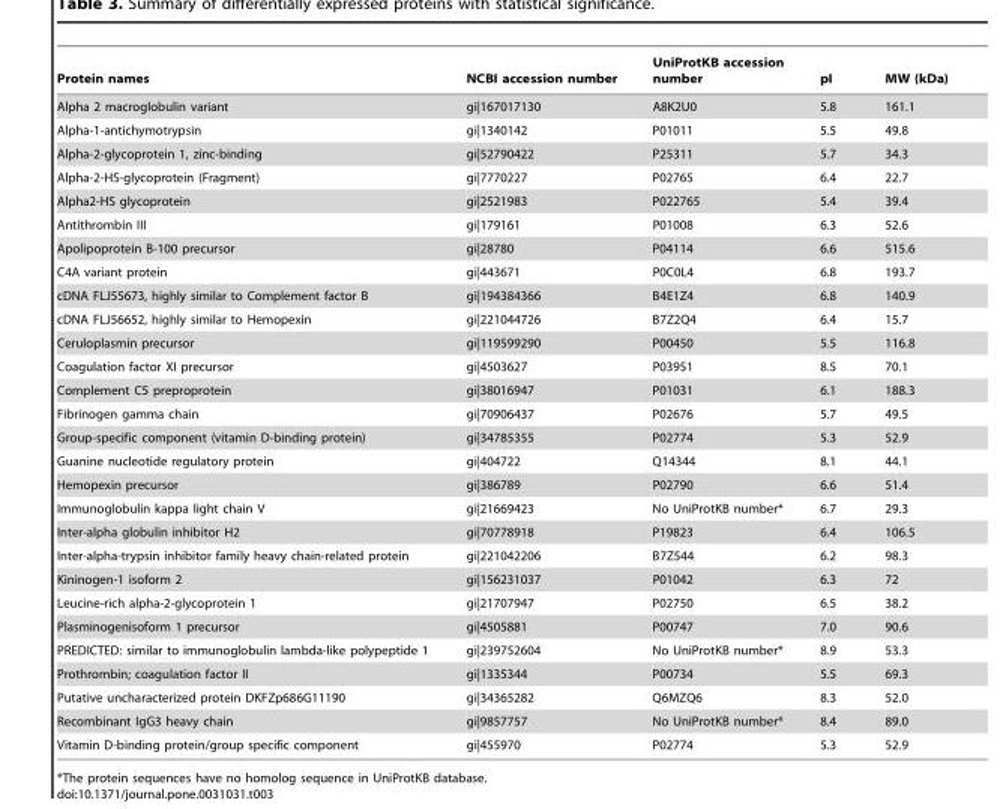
<table><thead><tr><td>Protein names</td><td>NCBI accession number</td><td>UniProtKB accession number</td><td>pI</td><td>MW (kDa)</td></tr></thead><tbody><tr><td>Alpha 2 macroglobulin variant</td><td>gi|167017130</td><td>A8K2U0</td><td>5.8</td><td>161.1</td></tr><tr><td>Alpha-1-antichymotrypsin</td><td>gi|1340142</td><td>P01011</td><td>5.5</td><td>49.8</td></tr><tr><td>Alpha-2-glycoprotein 1, zinc-binding</td><td>gi|52790422</td><td>P25311</td><td>5.7</td><td>34.3</td></tr><tr><td>Alpha-2-HS-glycoprotein (Fragment)</td><td>gi|7770227</td><td>P02765</td><td>6.4</td><td>22.7</td></tr><tr><td>Alpha2-HS glycoprotein</td><td>gi|2521983</td><td>P022765</td><td>5.4</td><td>39.4</td></tr><tr><td>Antithrombin III</td><td>gi|179161</td><td>P01008</td><td>6.3</td><td>52.6</td></tr><tr><td>Apolipoprotein B-100 precursor</td><td>gi|28780</td><td>P04114</td><td>6.6</td><td>515.6</td></tr><tr><td>C4A variant protein</td><td>gi|443671</td><td>P0C0L4</td><td>6.8</td><td>193.7</td></tr><tr><td>cDNA FLJ55673, highly similar to Complement factor B</td><td>gi|194384366</td><td>B4E1Z4</td><td>6.8</td><td>140.9</td></tr><tr><td>cDNA FLJ56652, highly similar to Hemopexin</td><td>gi|221044726</td><td>B7Z2Q4</td><td>6.4</td><td>15.7</td></tr><tr><td>Ceruloplasmin precursor</td><td>gi|119599290</td><td>P00450</td><td>5.5</td><td>116.8</td></tr><tr><td>Coagulation factor XI precursor</td><td>gi|4503627</td><td>P03951</td><td>8.5</td><td>70.1</td></tr><tr><td>Complement C5 preproprotein</td><td>gi|38016947</td><td>P01031</td><td>6.1</td><td>188.3</td></tr><tr><td>Fibrinogen gamma chain</td><td>gi|70906437</td><td>P02676</td><td>5.7</td><td>49.5</td></tr><tr><td>Group-specific component (vitamin D-binding protein)</td><td>gi|34785355</td><td>P02774</td><td>5.3</td><td>52.9</td></tr><tr><td>Guanine nucleotide regulatory protein</td><td>gi|404722</td><td>Q14344</td><td>8.1</td><td>44.1</td></tr><tr><td>Hemopexin precursor</td><td>gi|386789</td><td>P02790</td><td>6.6</td><td>51.4</td></tr><tr><td>Immunoglobulin kappa light chain V</td><td>gi|21669423</td><td>No UniProtKB number*</td><td>6.7</td><td>29.3</td></tr><tr><td>Inter-alpha globulin inhibitor H2</td><td>gi|70778918</td><td>P19823</td><td>6.4</td><td>106.5</td></tr><tr><td>Inter-alpha-trypsin inhibitor family heavy chain-related protein</td><td>gi|221042206</td><td>B7Z544</td><td>6.2</td><td>98.3</td></tr><tr><td>Kininogen-1 isoform 2</td><td>gi|156231037</td><td>P01042</td><td>6.3</td><td>72</td></tr><tr><td>Leucine-rich alpha-2-glycoprotein 1</td><td>gi|21707947</td><td>P02750</td><td>6.5</td><td>38.2</td></tr><tr><td>Plasminogenisoform 1 precursor</td><td>gi|4505881</td><td>P00747</td><td>7.0</td><td>90.6</td></tr><tr><td>PREDICTED: similar to immunoglobulin lambda-like polypeptide 1</td><td>gi|239752604</td><td>No UniProtKB number*</td><td>8.9</td><td>53.3</td></tr><tr><td>Prothrombin; coagulation factor II</td><td>gi|1335344</td><td>P00734</td><td>5.5</td><td>69.3</td></tr><tr><td>Putative uncharacterized protein DKFZp686G11190</td><td>gi|34365282</td><td>Q6MZQ6</td><td>8.3</td><td>52.0</td></tr><tr><td>Recombinant IgG3 heavy chain</td><td>gi|9857757</td><td>No UniProtKB number*</td><td>8.4</td><td>89.0</td></tr><tr><td>Vitamin D-binding protein/group specific component</td><td>gi|455970</td><td>P02774</td><td>5.3</td><td>52.9</td></tr></tbody></table>